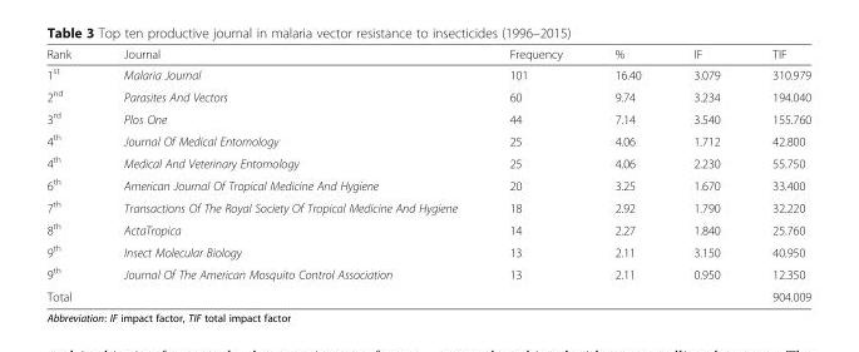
<table><thead><tr><td>Rank</td><td>Journal</td><td>Frequency</td><td>%</td><td>IF</td><td>TIF</td></tr></thead><tbody><tr><td>1<sup>st</sup></td><td>Malaria Journal</td><td>101</td><td>16.40</td><td>3.079</td><td>310.979</td></tr><tr><td>2<sup>nd</sup></td><td>Parasites And Vectors</td><td>60</td><td>9.74</td><td>3.234</td><td>194.040</td></tr><tr><td>3<sup>rd</sup></td><td>Plos One</td><td>44</td><td>7.14</td><td>3.540</td><td>155.760</td></tr><tr><td>4<sup>th</sup></td><td>Journal Of Medical Entomology</td><td>25</td><td>4.06</td><td>1.712</td><td>42.800</td></tr><tr><td>4<sup>th</sup></td><td>Medical And Veterinary Entomology</td><td>25</td><td>4.06</td><td>2.230</td><td>55.750</td></tr><tr><td>6<sup>th</sup></td><td>American Journal Of Tropical Medicine And Hygiene</td><td>20</td><td>3.25</td><td>1.670</td><td>33.400</td></tr><tr><td>7<sup>th</sup></td><td>Transactions Of The Royal Society Of Tropical Medicine And Hygiene</td><td>18</td><td>2.92</td><td>1.790</td><td>32.220</td></tr><tr><td>8<sup>th</sup></td><td>ActaTropica</td><td>14</td><td>2.27</td><td>1.840</td><td>25.760</td></tr><tr><td>9<sup>th</sup></td><td>Insect Molecular Biology</td><td>13</td><td>2.11</td><td>3.150</td><td>40.950</td></tr><tr><td>9<sup>th</sup></td><td>Journal Of The American Mosquito Control Association</td><td>13</td><td>2.11</td><td>0.950</td><td>12.350</td></tr><tr><td>Total</td><td colspan="4"></td><td>904.009</td></tr></tbody></table>